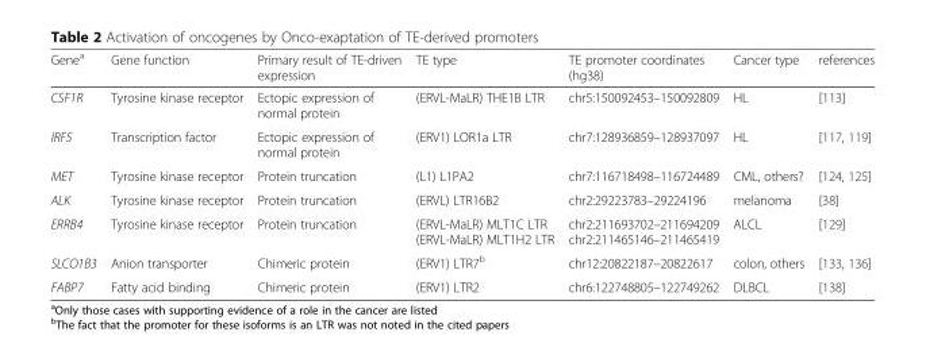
<table><thead><tr><td>Gene<sup>a</sup></td><td>Gene function</td><td>Primary result of TE-driven expression</td><td>TE type</td><td>TE promoter coordinates (hg38)</td><td>Cancer type</td><td>references</td></tr></thead><tbody><tr><td>CSF1R</td><td>Tyrosine kinase receptor</td><td>Ectopic expression of normal protein</td><td>(ERVL-MaLR) THE1B LTR</td><td>chr5:150092453–150092809</td><td>HL</td><td>[113]</td></tr><tr><td>IRF5</td><td>Transcription factor</td><td>Ectopic expression of normal protein</td><td>(ERV1) LOR1a LTR</td><td>chr7:128936859–128937097</td><td>HL</td><td>[117, 119]</td></tr><tr><td>MET</td><td>Tyrosine kinase receptor</td><td>Protein truncation</td><td>(L1) L1PA2</td><td>chr7:116718498–116724489</td><td>CML, others?</td><td>[124, 125]</td></tr><tr><td>ALK</td><td>Tyrosine kinase receptor</td><td>Protein truncation</td><td>(ERVL) LTR16B2</td><td>chr2:29223783–29224196</td><td>melanoma</td><td>[38]</td></tr><tr><td>ERRB4</td><td>Tyrosine kinase receptor</td><td>Protein truncation</td><td>(ERVL-MaLR) MLT1C LTR (ERVL-MaLR) MLT1H2 LTR</td><td>chr2:211693702–211694209 chr2:211465146–211465419</td><td>ALCL</td><td>[129]</td></tr><tr><td>SLCO1B3</td><td>Anion transporter</td><td>Chimeric protein</td><td>(ERV1) LTR7<sup>b</sup></td><td>chr12:20822187–20822617</td><td>colon, others</td><td>[133, 136]</td></tr><tr><td>FABP7</td><td>Fatty acid binding</td><td>Chimeric protein</td><td>(ERV1) LTR2</td><td>chr6:122748805–122749262</td><td>DLBCL</td><td>[138]</td></tr></tbody></table>